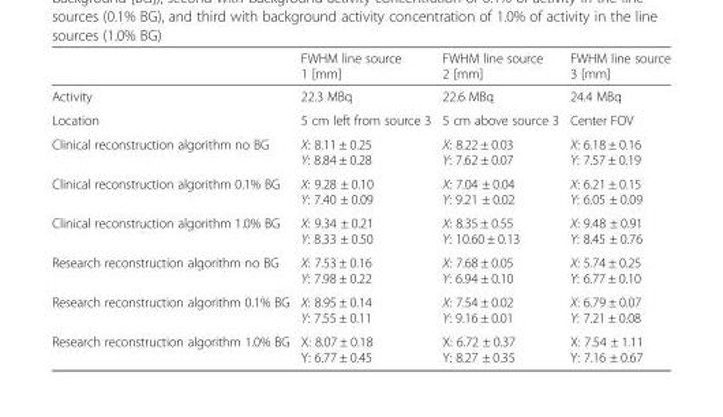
<table><thead><tr><td></td><td>FWHM line source 1 [mm]</td><td>FWHM line source 2 [mm]</td><td>FWHM line source 3 [mm]</td></tr></thead><tbody><tr><td>Activity</td><td>22.3 MBq</td><td>22.6 MBq</td><td>24.4 MBq</td></tr><tr><td>Location</td><td>5 cm left from source 3</td><td>5 cm above source 3</td><td>Center FOV</td></tr><tr><td>Clinical reconstruction algorithm no BG</td><td>X: 8.11 ± 0.25 Y: 8.84 ± 0.28</td><td>X: 8.22 ± 0.03 Y: 7.62 ± 0.07</td><td>X: 6.18 ± 0.16 Y: 7.57 ± 0.19</td></tr><tr><td>Clinical reconstruction algorithm 0.1% BG</td><td>X: 9.28 ± 0.10 Y: 7.40 ± 0.09</td><td>X: 7.04 ± 0.04 Y: 9.21 ± 0.02</td><td>X: 6.21 ± 0.15 Y: 6.05 ± 0.09</td></tr><tr><td>Clinical reconstruction algorithm 1.0% BG</td><td>X: 9.34 ± 0.21 Y: 8.33 ± 0.50</td><td>X: 8.35 ± 0.55 Y: 10.60 ± 0.13</td><td>X: 9.48 ± 0.91 Y: 8.45 ± 0.76</td></tr><tr><td>Research reconstruction algorithm no BG</td><td>X: 7.53 ± 0.16 Y: 7.98 ± 0.22</td><td>X: 7.68 ± 0.05 Y: 6.94 ± 0.10</td><td>X: 5.74 ± 0.25 Y: 6.77 ± 0.10</td></tr><tr><td>Research reconstruction algorithm 0.1% BG</td><td>X: 8.95 ± 0.14 Y: 7.55 ± 0.11</td><td>X: 7.54 ± 0.02 Y: 9.16 ± 0.01</td><td>X: 6.79 ± 0.07 Y: 7.21 ± 0.08</td></tr><tr><td>Research reconstruction algorithm 1.0% BG</td><td>X: 8.07 ± 0.18 Y: 6.77 ± 0.45</td><td>X: 6.72 ± 0.37 Y: 8.27 ± 0.35</td><td>X: 7.54 ± 1.11 Y: 7.16 ± 0.67</td></tr></tbody></table>